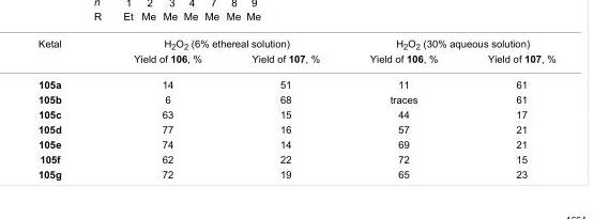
<table><tbody><tr><td rowspan="2">Ketal</td><td colspan="2">H<sub>2</sub>O<sub>2</sub> (6% ethereal solution)</td><td colspan="2">H<sub>2</sub>O<sub>2</sub> (30% aqueous solution)</td></tr><tr><td>Yield of 106, %</td><td>Yield of 107, %</td><td>Yield of 106, %</td><td>Yield of 107, %</td></tr><tr><td>105a</td><td>14</td><td>51</td><td>11</td><td>61</td></tr><tr><td>105b</td><td>6</td><td>68</td><td>traces</td><td>61</td></tr><tr><td>105c</td><td>63</td><td>15</td><td>44</td><td>17</td></tr><tr><td>105d</td><td>77</td><td>16</td><td>57</td><td>21</td></tr><tr><td>105e</td><td>74</td><td>14</td><td>69</td><td>21</td></tr><tr><td>105f</td><td>62</td><td>22</td><td>72</td><td>15</td></tr><tr><td>105g</td><td>72</td><td>19</td><td>65</td><td>23</td></tr></tbody></table>